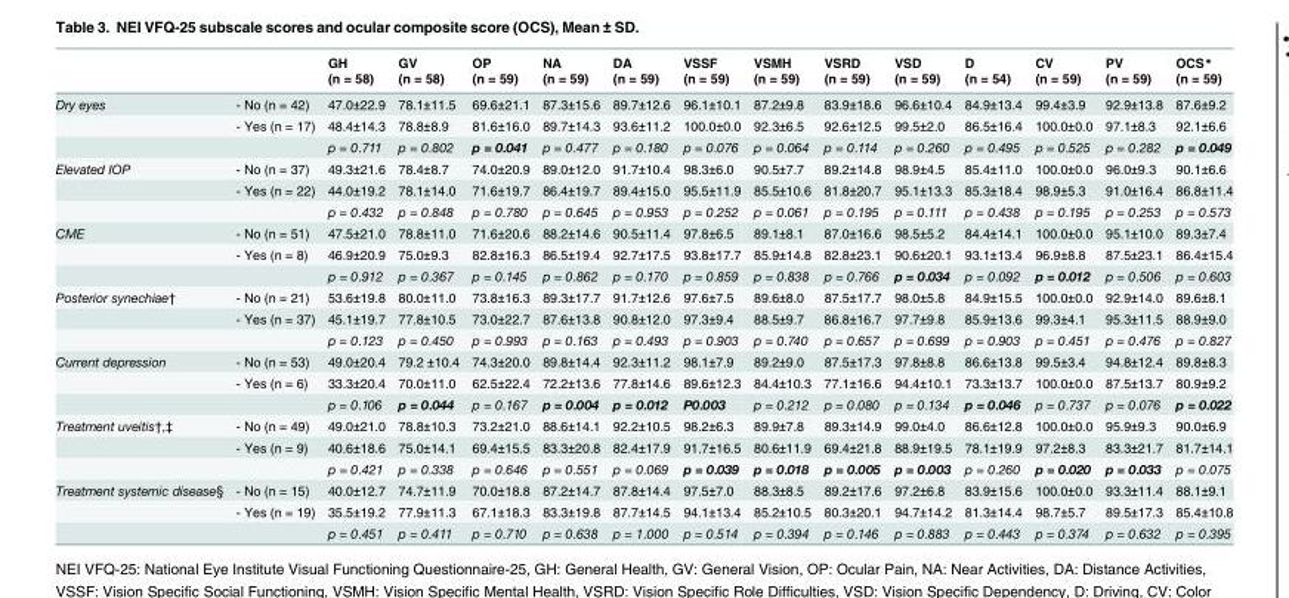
<table><thead><tr><td rowspan="2"></td><td rowspan="2"></td><td rowspan="2">GH (n = 58)</td><td rowspan="2">GV (n = 58)</td><td rowspan="2">OP (n = 59)</td><td rowspan="2">NA (n = 59)</td><td rowspan="2">DA (n = 59)</td><td rowspan="2">VSSF (n = 59)</td><td rowspan="2">VSMH (n = 59)</td><td rowspan="2">VSRD (n = 59)</td><td rowspan="2">VSD (n = 59)</td><td rowspan="2">D (n = 54)</td><td rowspan="2">CV (n = 59)</td><td rowspan="2">PV (n = 59)</td><td rowspan="2">OCS* (n = 59)</td></tr><tr></tr></thead><tbody><tr><td rowspan="3">Dry eyes</td><td>- No (n = 42)</td><td>47.0±22.9</td><td>78.1±11.5</td><td>69.6±21.1</td><td>87.3±15.6</td><td>89.7±12.6</td><td>96.1±10.1</td><td>87.2±9.8</td><td>83.9±18.6</td><td>96.6±10.4</td><td>84.9±13.4</td><td>99.4±3.9</td><td>92.9±13.8</td><td>87.6±9.2</td></tr><tr><td>- Yes (n = 17)</td><td>48.4±14.3</td><td>78.8±8.9</td><td>81.6±16.0</td><td>89.7±14.3</td><td>93.6±11.2</td><td>100.0±0.0</td><td>92.3±6.5</td><td>92.6±12.5</td><td>99.5±2.0</td><td>86.5±16.4</td><td>100.0±0.0</td><td>97.1±8.3</td><td>92.1±6.6</td></tr><tr><td></td><td>p = 0.711</td><td>p = 0.802</td><td>p = 0.041</td><td>p = 0.477</td><td>p = 0.180</td><td>p = 0.076</td><td>p = 0.064</td><td>p = 0.114</td><td>p = 0.260</td><td>p = 0.495</td><td>p = 0.525</td><td>p = 0.282</td><td>p = 0.049</td></tr><tr><td rowspan="3">Elevated IOP</td><td>- No (n = 37)</td><td>49.3±21.6</td><td>78.4±8.7</td><td>74.0±20.9</td><td>89.0±12.0</td><td>91.7±10.4</td><td>98.3±6.0</td><td>90.5±7.7</td><td>89.2±14.8</td><td>98.9±4.5</td><td>85.4±11.0</td><td>100.0±0.0</td><td>96.0±9.3</td><td>90.1±6.6</td></tr><tr><td>- Yes (n = 22)</td><td>44.0±19.2</td><td>78.1±14.0</td><td>71.6±19.7</td><td>86.4±19.7</td><td>89.4±15.0</td><td>95.5±11.9</td><td>85.5±10.6</td><td>81.8±20.7</td><td>95.1±13.3</td><td>85.3±18.4</td><td>98.9±5.3</td><td>91.0±16.4</td><td>86.8±11.4</td></tr><tr><td></td><td>p = 0.432</td><td>p = 0.848</td><td>p = 0.780</td><td>p = 0.645</td><td>p = 0.953</td><td>p = 0.252</td><td>p = 0.061</td><td>p = 0.195</td><td>p = 0.111</td><td>p = 0.438</td><td>p = 0.195</td><td>p = 0.253</td><td>p = 0.573</td></tr><tr><td rowspan="3">CME</td><td>- No (n = 51)</td><td>47.5±21.0</td><td>78.8±11.0</td><td>71.6±20.6</td><td>88.2±14.6</td><td>90.5±11.4</td><td>97.8±6.5</td><td>89.1±8.1</td><td>87.0±16.6</td><td>98.5±5.2</td><td>84.4±14.1</td><td>100.0±0.0</td><td>95.1±10.0</td><td>89.3±7.4</td></tr><tr><td>- Yes (n = 8)</td><td>46.9±20.9</td><td>75.0±9.3</td><td>82.8±16.3</td><td>86.5±19.4</td><td>92.7±17.5</td><td>93.8±17.7</td><td>85.9±14.8</td><td>82.8±23.1</td><td>90.6±20.1</td><td>93.1±13.4</td><td>96.9±8.8</td><td>87.5±23.1</td><td>86.4±15.4</td></tr><tr><td></td><td>p = 0.912</td><td>p = 0.367</td><td>p = 0.145</td><td>p = 0.862</td><td>p = 0.170</td><td>p = 0.859</td><td>p = 0.838</td><td>p = 0.766</td><td>p = 0.034</td><td>p = 0.092</td><td>p = 0.012</td><td>p = 0.506</td><td>p = 0.603</td></tr><tr><td rowspan="3">Posterior synechiae†</td><td>- No (n = 21)</td><td>53.6±19.8</td><td>80.0±11.0</td><td>73.8±16.3</td><td>89.3±17.7</td><td>91.7±12.6</td><td>97.6±7.5</td><td>89.6±8.0</td><td>87.5±17.7</td><td>98.0±5.8</td><td>84.9±15.5</td><td>100.0±0.0</td><td>92.9±14.0</td><td>89.6±8.1</td></tr><tr><td>- Yes (n = 37)</td><td>45.1±19.7</td><td>77.8±10.5</td><td>73.0±22.7</td><td>87.6±13.8</td><td>90.8±12.0</td><td>97.3±9.4</td><td>88.5±9.7</td><td>86.8±16.7</td><td>97.7±9.8</td><td>85.9±13.6</td><td>99.3±4.1</td><td>95.3±11.5</td><td>88.9±9.0</td></tr><tr><td></td><td>p = 0.123</td><td>p = 0.450</td><td>p = 0.993</td><td>p = 0.163</td><td>p = 0.493</td><td>p = 0.903</td><td>p = 0.740</td><td>p = 0.657</td><td>p = 0.699</td><td>p = 0.903</td><td>p = 0.451</td><td>p = 0.476</td><td>p = 0.827</td></tr><tr><td rowspan="3">Current depression</td><td>- No (n = 53)</td><td>49.0±20.4</td><td>79.2 ±10.4</td><td>74.3±20.0</td><td>89.8±14.4</td><td>92.3±11.2</td><td>98.1±7.9</td><td>89.2±9.0</td><td>87.5±17.3</td><td>97.8±8.8</td><td>86.6±13.8</td><td>99.5±3.4</td><td>94.8±12.4</td><td>89.8±8.3</td></tr><tr><td>- Yes (n = 6)</td><td>33.3±20.4</td><td>70.0±11.0</td><td>62.5±22.4</td><td>72.2±13.6</td><td>77.8±14.6</td><td>89.6±12.3</td><td>84.4±10.3</td><td>77.1±16.6</td><td>94.4±10.1</td><td>73.3±13.7</td><td>100.0±0.0</td><td>87.5±13.7</td><td>80.9±9.2</td></tr><tr><td></td><td>p = 0.106</td><td>p = 0.044</td><td>p = 0.167</td><td>p = 0.004</td><td>p = 0.012</td><td>P0.003</td><td>p = 0.212</td><td>p = 0.080</td><td>p = 0.134</td><td>p = 0.046</td><td>p = 0.737</td><td>p = 0.076</td><td>p = 0.022</td></tr><tr><td rowspan="3">Treatment uveitis†,‡</td><td>- No (n = 49)</td><td>49.0±21.0</td><td>78.8±10.3</td><td>73.2±21.0</td><td>88.6±14.1</td><td>92.2±10.5</td><td>98.2±6.3</td><td>89.9±7.8</td><td>89.3±14.9</td><td>99.0±4.0</td><td>86.6±12.8</td><td>100.0±0.0</td><td>95.9±9.3</td><td>90.0±6.9</td></tr><tr><td>- Yes (n = 9)</td><td>40.6±18.6</td><td>75.0±14.1</td><td>69.4±15.5</td><td>83.3±20.8</td><td>82.4±17.9</td><td>91.7±16.5</td><td>80.6±11.9</td><td>69.4±21.8</td><td>88.9±19.5</td><td>78.1±19.9</td><td>97.2±8.3</td><td>83.3±21.7</td><td>81.7±14.1</td></tr><tr><td></td><td>p = 0.421</td><td>p = 0.338</td><td>p = 0.646</td><td>p = 0.551</td><td>p = 0.069</td><td>p = 0.039</td><td>p = 0.018</td><td>p = 0.005</td><td>p = 0.003</td><td>p = 0.260</td><td>p = 0.020</td><td>p = 0.033</td><td>p = 0.075</td></tr><tr><td rowspan="3">Treatment systemic disease§</td><td>- No (n = 15)</td><td>40.0±12.7</td><td>74.7±11.9</td><td>70.0±18.8</td><td>87.2±14.7</td><td>87.8±14.4</td><td>97.5±7.0</td><td>88.3±8.5</td><td>89.2±17.6</td><td>97.2±6.8</td><td>83.9±15.6</td><td>100.0±0.0</td><td>93.3±11.4</td><td>88.1±9.1</td></tr><tr><td>- Yes (n = 19)</td><td>35.5±19.2</td><td>77.9±11.3</td><td>67.1±18.3</td><td>83.3±19.8</td><td>87.7±14.5</td><td>94.1±13.4</td><td>85.2±10.5</td><td>80.3±20.1</td><td>94.7±14.2</td><td>81.3±14.4</td><td>98.7±5.7</td><td>89.5±17.3</td><td>85.4±10.8</td></tr><tr><td></td><td>p = 0.451</td><td>p = 0.411</td><td>p = 0.710</td><td>p = 0.638</td><td>p = 1.000</td><td>p = 0.514</td><td>p = 0.394</td><td>p = 0.146</td><td>p = 0.883</td><td>p = 0.443</td><td>p = 0.374</td><td>p = 0.632</td><td>p = 0.395</td></tr></tbody></table>